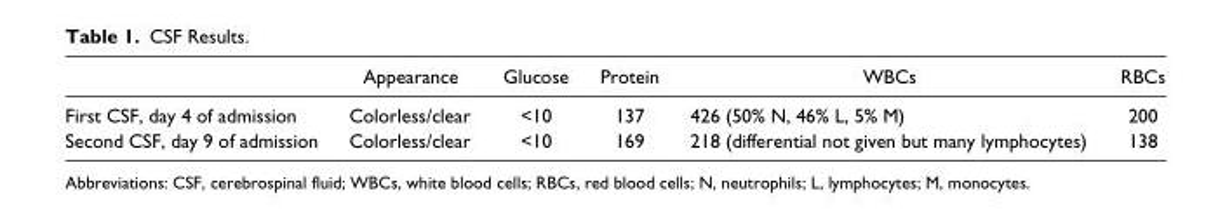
<table><thead><tr><td></td><td>Appearance</td><td>Glucose</td><td>Protein</td><td>WBCs</td><td>RBCs</td></tr></thead><tbody><tr><td>First CSF, day 4 of admission</td><td>Colorless/clear</td><td>&lt;10</td><td>137</td><td>426 (50% N, 46% L, 5% M)</td><td>200</td></tr><tr><td>Second CSF, day 9 of admission</td><td>Colorless/clear</td><td>&lt;10</td><td>169</td><td>218 (differential not given but many lymphocytes)</td><td>138</td></tr></tbody></table>